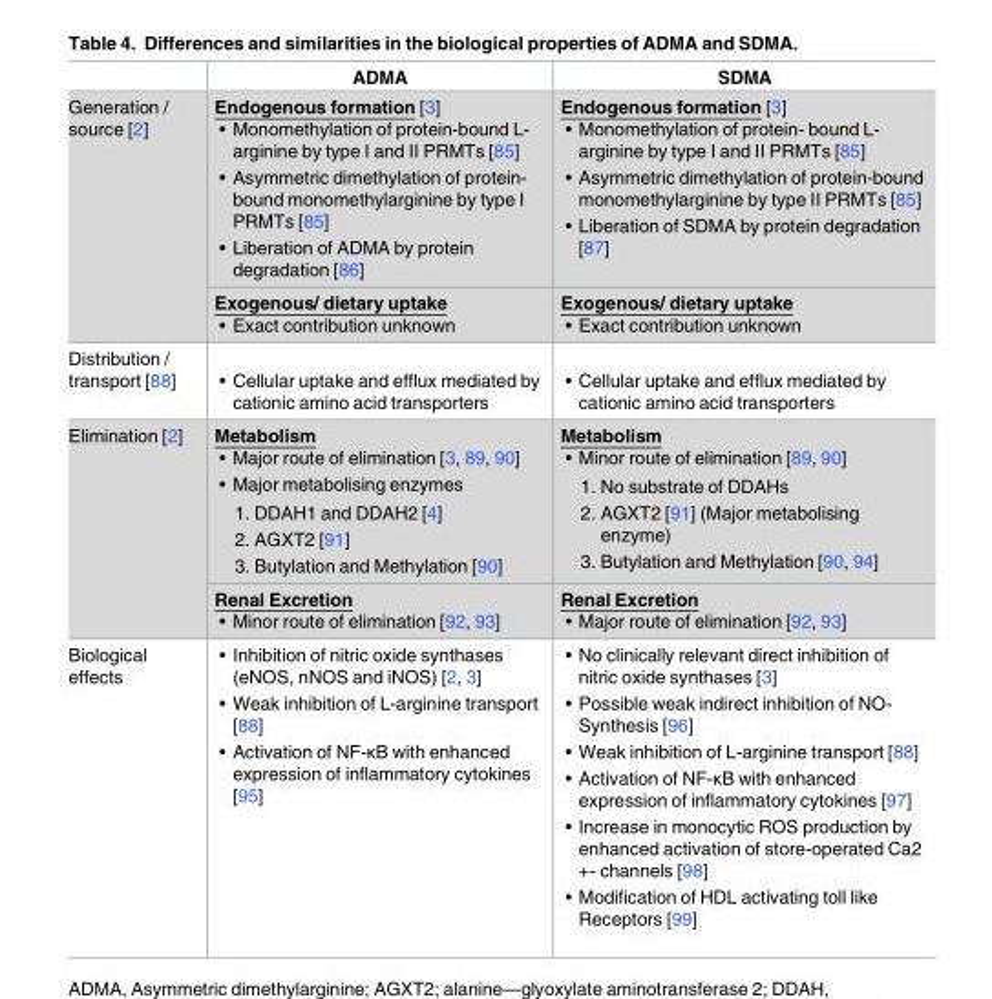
<table><thead><tr><td></td><td>ADMA</td><td>SDMA</td></tr></thead><tbody><tr><td rowspan="2">Generation / source [2]</td><td>Endogenous formation [3] • Monomethylation of protein-bound L- arginine by type I and II PRMTs [85] • Asymmetric dimethylation of protein- bound monomethylarginine by type I PRMTs [85] • Liberation of ADMA by protein degradation [86]</td><td>Endogenous formation [3] • Monomethylation of protein- bound L- arginine by type I and II PRMTs [85] • Asymmetric dimethylation of protein-bound monomethylarginine by type II PRMTs [85] • Liberation of SDMA by protein degradation [87]</td></tr><tr><td>Exogenous/ dietary uptake • Exact contribution unknown</td><td>Exogenous/ dietary uptake • Exact contribution unknown</td></tr><tr><td>Distribution / transport [88]</td><td>• Cellular uptake and efflux mediated by cationic amino acid transporters</td><td>• Cellular uptake and efflux mediated by cationic amino acid transporters</td></tr><tr><td rowspan="2">Elimination [2]</td><td>Metabolism • Major route of elimination [3, 89, 90] • Major metabolising enzymes 1. DDAH1 and DDAH2 [4] 2. AGXT2 [91] 3. Butylation and Methylation [90]</td><td>Metabolism • Minor route of elimination [89, 90] 1. No substrate of DDAHs 2. AGXT2 [91] (Major metabolising enzyme) 3. Butylation and Methylation [90, 94]</td></tr><tr><td>Renal Excretion • Minor route of elimination [92, 93]</td><td>Renal Excretion • Major route of elimination [92, 93]</td></tr><tr><td>Biological effects</td><td>• Inhibition of nitric oxide synthases (eNOS, nNOS and iNOS) [2, 3] • Weak inhibition of L-arginine transport [88] • Activation of NF-κB with enhanced expression of inflammatory cytokines [95]</td><td>• No clinically relevant direct inhibition of nitric oxide synthases [3] • Possible weak indirect inhibition of NO- Synthesis [96] • Weak inhibition of L-arginine transport [88] • Activation of NF-κB with enhanced expression of inflammatory cytokines [97] • Increase in monocytic ROS production by enhanced activation of store-operated Ca2 +- channels [98] • Modification of HDL activating toll like Receptors [99]</td></tr></tbody></table>